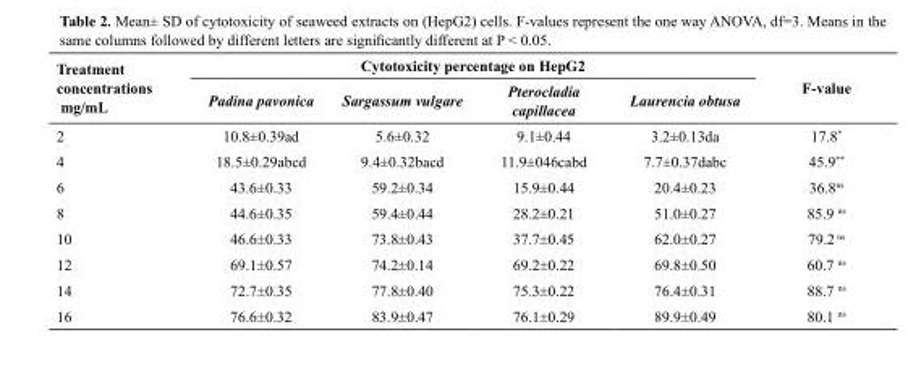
<table><thead><tr><td rowspan="2">Treatment concentrations mg/mL</td><td colspan="4">Cytotoxicity percentage on HepG2</td><td rowspan="2">F-value</td></tr><tr><td>Padina pavonica</td><td>Sargassum vulgare</td><td>Pterocladia capillacea</td><td>Laurencia obtusa</td></tr></thead><tbody><tr><td>2</td><td>10.8±0.39ad</td><td>5.6±0.32</td><td>9.1±0.44</td><td>3.2±0.13da</td><td>17.8*</td></tr><tr><td>4</td><td>18.5±0.29abcd</td><td>9.4±0.32bacd</td><td>11.9±046cabd</td><td>7.7±0.37dabc</td><td>45.9**</td></tr><tr><td>6</td><td>43.6±0.33</td><td>59.2±0.34</td><td>15.9±0.44</td><td>20.4±0.23</td><td>36.8<sup>ns</sup></td></tr><tr><td>8</td><td>44.6±0.35</td><td>59.4±0.44</td><td>28.2±0.21</td><td>51.0±0.27</td><td>85.9 <sup>ns</sup></td></tr><tr><td>10</td><td>46.6±0.33</td><td>73.8±0.43</td><td>37.7±0.45</td><td>62.0±0.27</td><td>79.2 <sup>ns</sup></td></tr><tr><td>12</td><td>69.1±0.57</td><td>74.2±0.14</td><td>69.2±0.22</td><td>69.8±0.50</td><td>60.7 <sup>ns</sup></td></tr><tr><td>14</td><td>72.7±0.35</td><td>77.8±0.40</td><td>75.3±0.22</td><td>76.4±0.31</td><td>88.7 <sup>ns</sup></td></tr><tr><td>16</td><td>76.6±0.32</td><td>83.9±0.47</td><td>76.1±0.29</td><td>89.9±0.49</td><td>80.1 <sup>ns</sup></td></tr></tbody></table>